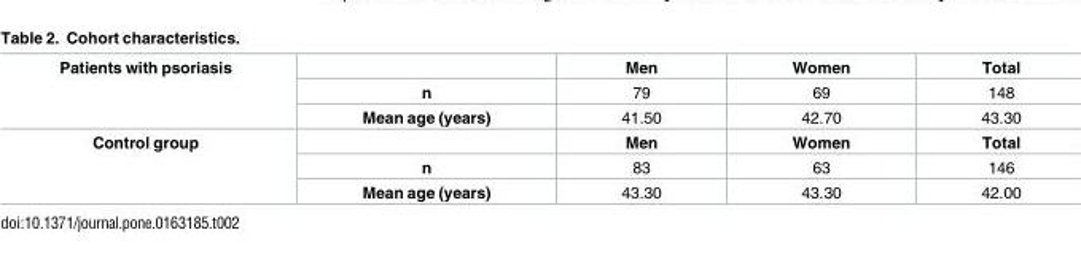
<table><tbody><tr><td rowspan="3">Patients with psoriasis</td><td></td><td>Men</td><td>Women</td><td>Total</td></tr><tr><td>n</td><td>79</td><td>69</td><td>148</td></tr><tr><td>Mean age (years)</td><td>41.50</td><td>42.70</td><td>43.30</td></tr><tr><td rowspan="3">Control group</td><td></td><td>Men</td><td>Women</td><td>Total</td></tr><tr><td>n</td><td>83</td><td>63</td><td>146</td></tr><tr><td>Mean age (years)</td><td>43.30</td><td>43.30</td><td>42.00</td></tr></tbody></table>